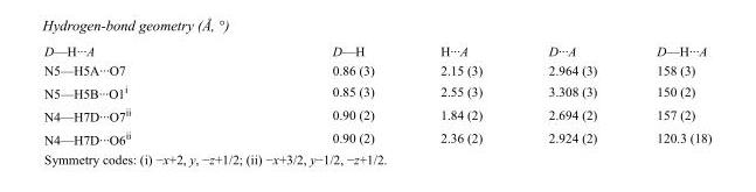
<table><tbody><tr><td>D—H···A</td><td>D—H</td><td>H···A</td><td>D···A</td><td>D—H···A</td></tr><tr><td>N5—H5A···O7</td><td>0.86 (3)</td><td>2.15 (3)</td><td>2.964 (3)</td><td>158 (3)</td></tr><tr><td>N5—H5B···O1<sup>i</sup></td><td>0.85 (3)</td><td>2.55 (3)</td><td>3.308 (3)</td><td>150 (2)</td></tr><tr><td>N4—H7D···O7<sup>ii</sup></td><td>0.90 (2)</td><td>1.84 (2)</td><td>2.694 (2)</td><td>157 (2)</td></tr><tr><td>N4—H7D···O6<sup>ii</sup></td><td>0.90 (2)</td><td>2.36 (2)</td><td>2.924 (2)</td><td>120.3 (18)</td></tr></tbody></table>